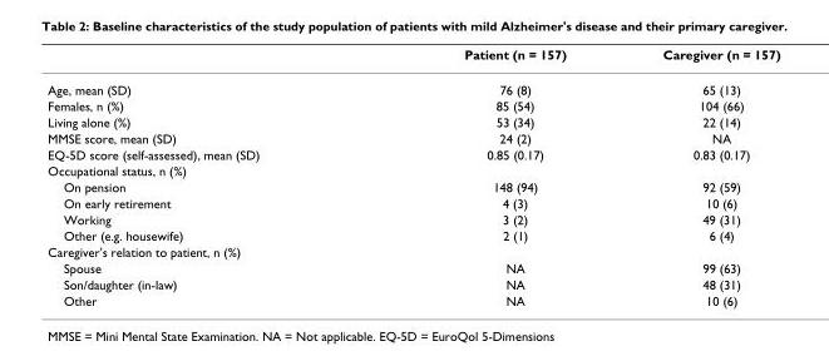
<table><thead><tr><td></td><td>Patient (n = 157)</td><td>Caregiver (n = 157)</td></tr></thead><tbody><tr><td>Age, mean (SD)</td><td>76 (8)</td><td>65 (13)</td></tr><tr><td>Females, n (%)</td><td>85 (54)</td><td>104 (66)</td></tr><tr><td>Living alone (%)</td><td>53 (34)</td><td>22 (14)</td></tr><tr><td>MMSE score, mean (SD)</td><td>24 (2)</td><td>NA</td></tr><tr><td>EQ-5D score (self-assessed), mean (SD)</td><td>0.85 (0.17)</td><td>0.83 (0.17)</td></tr><tr><td colspan="3">Occupational status, n (%)</td></tr><tr><td>On pension</td><td>148 (94)</td><td>92 (59)</td></tr><tr><td>On early retirement</td><td>4 (3)</td><td>10 (6)</td></tr><tr><td>Working</td><td>3 (2)</td><td>49 (31)</td></tr><tr><td>Other (e.g. housewife)</td><td>2 (1)</td><td>6 (4)</td></tr><tr><td colspan="3">Caregiver&#x27;s relation to patient, n (%)</td></tr><tr><td>Spouse</td><td>NA</td><td>99 (63)</td></tr><tr><td>Son/daughter (in-law)</td><td>NA</td><td>48 (31)</td></tr><tr><td>Other</td><td>NA</td><td>10 (6)</td></tr></tbody></table>